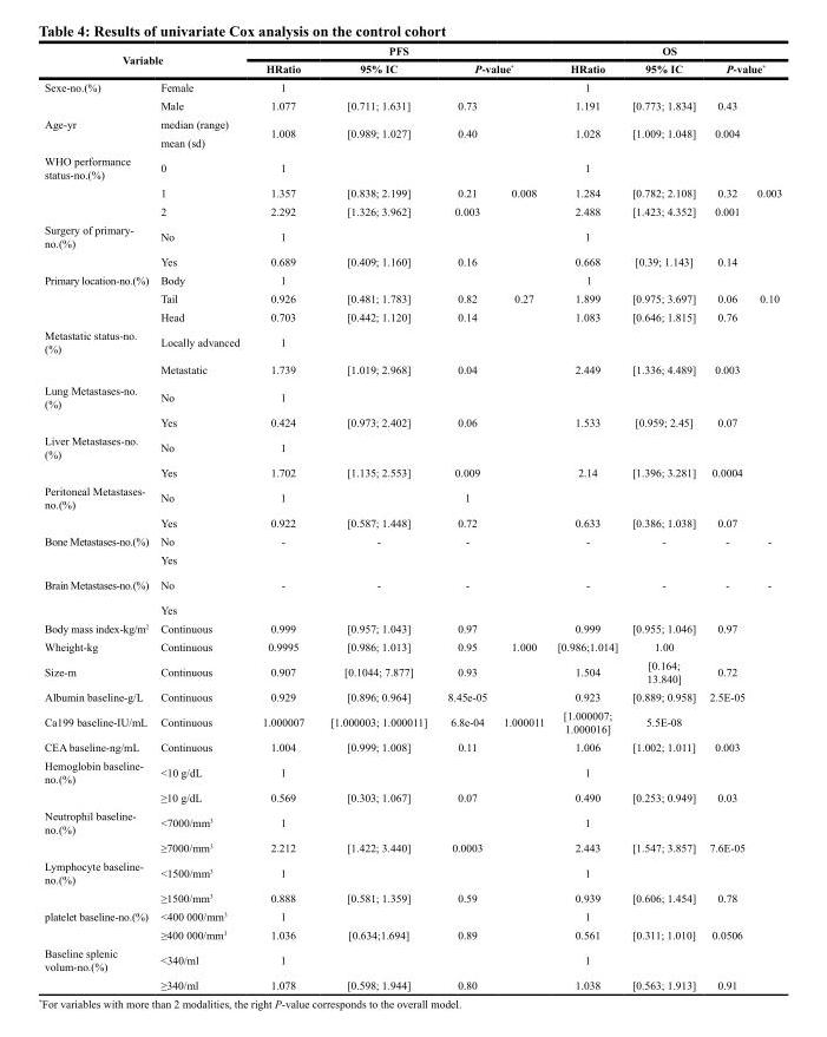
<table><thead><tr><td rowspan="2" colspan="2">Variable</td><td colspan="4">PFS</td><td colspan="4">OS</td></tr><tr><td rowspan="2">HRatio 1</td><td rowspan="2">95% IC</td><td colspan="2">P-value*</td><td rowspan="2">HRatio 1</td><td rowspan="2">95% IC</td><td colspan="2">P-value*</td></tr><tr><td>Sexe-no.(%)</td><td>Female</td><td></td><td></td><td></td><td></td></tr></thead><tbody><tr><td></td><td>Male</td><td>1.077</td><td>[0.711; 1.631]</td><td>0.73</td><td></td><td>1.191</td><td>[0.773; 1.834]</td><td>0.43</td><td></td></tr><tr><td rowspan="2">Age-yr</td><td>median (range)</td><td rowspan="2">1.008</td><td rowspan="2">[0.989; 1.027]</td><td rowspan="2">0.40</td><td></td><td rowspan="2">1.028</td><td rowspan="2">[1.009; 1.048]</td><td rowspan="2">0.004</td><td></td></tr><tr><td>mean (sd)</td><td></td><td></td></tr><tr><td rowspan="3">WHO performance status-no.(%)</td><td>0</td><td>1</td><td></td><td></td><td></td><td>1</td><td></td><td></td><td></td></tr><tr><td>1</td><td>1.357</td><td>[0.838; 2.199]</td><td>0.21</td><td>0.008</td><td>1.284</td><td>[0.782; 2.108]</td><td>0.32</td><td>0.003</td></tr><tr><td>2</td><td>2.292</td><td>[1.326; 3.962]</td><td>0.003</td><td></td><td>2.488</td><td>[1.423; 4.352]</td><td>0.001</td><td></td></tr><tr><td rowspan="2">Surgery of primary- no.(%)</td><td>No</td><td>1</td><td></td><td></td><td></td><td>1</td><td></td><td></td><td></td></tr><tr><td>Yes</td><td>0.689</td><td>[0.409; 1.160]</td><td>0.16</td><td></td><td>0.668</td><td>[0.39; 1.143]</td><td>0.14</td><td></td></tr><tr><td rowspan="3">Primary location-no.(%)</td><td>Body</td><td>1</td><td></td><td></td><td></td><td>1</td><td></td><td></td><td></td></tr><tr><td>Tail</td><td>0.926</td><td>[0.481; 1.783]</td><td>0.82</td><td>0.27</td><td>1.899</td><td>[0.975; 3.697]</td><td>0.06</td><td>0.10</td></tr><tr><td>Head</td><td>0.703</td><td>[0.442; 1.120]</td><td>0.14</td><td></td><td>1.083</td><td>[0.646; 1.815]</td><td>0.76</td><td></td></tr><tr><td rowspan="2">Metastatic status-no. (%)</td><td>Locally advanced</td><td>1</td><td></td><td></td><td></td><td></td><td></td><td></td><td></td></tr><tr><td>Metastatic</td><td>1.739</td><td>[1.019; 2.968]</td><td>0.04</td><td></td><td>2.449</td><td>[1.336; 4.489]</td><td>0.003</td><td></td></tr><tr><td rowspan="2">Lung Metastases-no. (%)</td><td>No</td><td>1</td><td></td><td></td><td></td><td></td><td></td><td></td><td></td></tr><tr><td>Yes</td><td>0.424</td><td>[0.973; 2.402]</td><td>0.06</td><td></td><td>1.533</td><td>[0.959; 2.45]</td><td>0.07</td><td></td></tr><tr><td rowspan="2">Liver Metastases-no. (%)</td><td>No</td><td>1</td><td></td><td></td><td></td><td></td><td></td><td></td><td></td></tr><tr><td>Yes</td><td>1.702</td><td>[1.135; 2.553]</td><td>0.009</td><td></td><td>2.14</td><td>[1.396; 3.281]</td><td>0.0004</td><td></td></tr><tr><td rowspan="2">Peritoneal Metastases- no.(%)</td><td>No</td><td>1</td><td></td><td>1</td><td></td><td></td><td></td><td></td><td></td></tr><tr><td>Yes</td><td>0.922</td><td>[0.587; 1.448]</td><td>0.72</td><td></td><td>0.633</td><td>[0.386; 1.038]</td><td>0.07</td><td></td></tr><tr><td rowspan="2">Bone Metastases-no.(%)</td><td>No</td><td>-</td><td>-</td><td>-</td><td></td><td>-</td><td>-</td><td>-</td><td>-</td></tr><tr><td>Yes</td><td></td><td></td><td></td><td></td><td></td><td></td><td></td><td></td></tr><tr><td rowspan="2">Brain Metastases-no.(%)</td><td>No</td><td>-</td><td>-</td><td>-</td><td></td><td>-</td><td>-</td><td>-</td><td>-</td></tr><tr><td>Yes</td><td></td><td></td><td></td><td></td><td></td><td></td><td></td><td></td></tr><tr><td>Body mass index-kg/m<sup>2</sup></td><td>Continuous</td><td>0.999</td><td>[0.957; 1.043]</td><td>0.97</td><td></td><td>0.999</td><td>[0.955; 1.046]</td><td>0.97</td><td></td></tr><tr><td>Wheight-kg</td><td>Continuous</td><td>0.9995</td><td>[0.986; 1.013]</td><td>0.95</td><td>1.000</td><td>[0.986;1.014]</td><td>1.00</td><td></td><td></td></tr><tr><td>Size-m</td><td>Continuous</td><td>0.907</td><td>[0.1044; 7.877]</td><td>0.93</td><td></td><td>1.504</td><td>[0.164; 13.840]</td><td>0.72</td><td></td></tr><tr><td>Albumin baseline-g/L</td><td>Continuous</td><td>0.929</td><td>[0.896; 0.964]</td><td>8.45e-05</td><td></td><td>0.923</td><td>[0.889; 0.958]</td><td>2.5E-05</td><td></td></tr><tr><td>Ca199 baseline-IU/mL</td><td>Continuous</td><td>1.000007</td><td>[1.000003; 1.000011]</td><td>6.8e-04</td><td>1.000011</td><td>[1.000007; 1.000016]</td><td>5.5E-08</td><td></td><td></td></tr><tr><td>CEA baseline-ng/mL</td><td>Continuous</td><td>1.004</td><td>[0.999; 1.008]</td><td>0.11</td><td></td><td>1.006</td><td>[1.002; 1.011]</td><td>0.003</td><td></td></tr><tr><td rowspan="2">Hemoglobin baseline- no.(%)</td><td>&lt;10 g/dL</td><td>1</td><td></td><td></td><td></td><td>1</td><td></td><td></td><td></td></tr><tr><td>≥10 g/dL</td><td>0.569</td><td>[0.303; 1.067]</td><td>0.07</td><td></td><td>0.490</td><td>[0.253; 0.949]</td><td>0.03</td><td></td></tr><tr><td rowspan="2">Neutrophil baseline- no.(%)</td><td>&lt;7000/mm<sup>3</sup></td><td>1</td><td></td><td></td><td></td><td>1</td><td></td><td></td><td></td></tr><tr><td>≥7000/mm<sup>3</sup></td><td>2.212</td><td>[1.422; 3.440]</td><td>0.0003</td><td></td><td>2.443</td><td>[1.547; 3.857]</td><td>7.6E-05</td><td></td></tr><tr><td rowspan="2">Lymphocyte baseline- no.(%)</td><td>&lt;1500/mm<sup>3</sup></td><td>1</td><td></td><td></td><td></td><td>1</td><td></td><td></td><td></td></tr><tr><td>≥1500/mm<sup>3</sup></td><td>0.888</td><td>[0.581; 1.359]</td><td>0.59</td><td></td><td>0.939</td><td>[0.606; 1.454]</td><td>0.78</td><td></td></tr><tr><td rowspan="2">platelet baseline-no.(%)</td><td>&lt;400 000/mm<sup>3</sup></td><td>1</td><td></td><td></td><td></td><td>1</td><td></td><td></td><td></td></tr><tr><td>≥400 000/mm<sup>3</sup></td><td>1.036</td><td>[0.634;1.694]</td><td>0.89</td><td></td><td>0.561</td><td>[0.311; 1.010]</td><td>0.0506</td><td></td></tr><tr><td rowspan="2">Baseline splenic volum-no.(%)</td><td>&lt;340/ml</td><td>1</td><td></td><td></td><td></td><td>1</td><td></td><td></td><td></td></tr><tr><td>≥340/ml</td><td>1.078</td><td>[0.598; 1.944]</td><td>0.80</td><td></td><td>1.038</td><td>[0.563; 1.913]</td><td>0.91</td><td></td></tr></tbody></table>